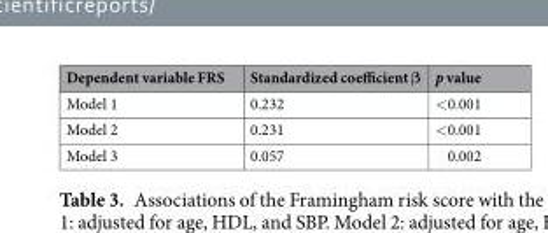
<table><thead><tr><td>Dependent variable FRS</td><td>Standardized coefficient β</td><td>p value</td></tr></thead><tbody><tr><td>Model 1</td><td>0.232</td><td>&lt;0.001</td></tr><tr><td>Model 2</td><td>0.231</td><td>&lt;0.001</td></tr><tr><td>Model 3</td><td>0.057</td><td>0.002</td></tr></tbody></table>